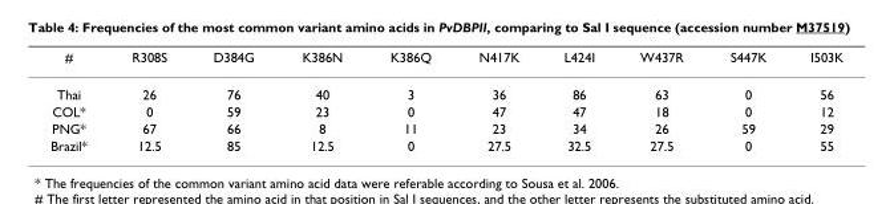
<table><thead><tr><td>#</td><td>R308S</td><td>D384G</td><td>K386N</td><td>K386Q</td><td>N417K</td><td>L424I</td><td>W437R</td><td>S447K</td><td>I503K</td></tr></thead><tbody><tr><td>Thai</td><td>26</td><td>76</td><td>40</td><td>3</td><td>36</td><td>86</td><td>63</td><td>0</td><td>56</td></tr><tr><td>COL*</td><td>0</td><td>59</td><td>23</td><td>0</td><td>47</td><td>47</td><td>18</td><td>0</td><td>12</td></tr><tr><td>PNG*</td><td>67</td><td>66</td><td>8</td><td>11</td><td>23</td><td>34</td><td>26</td><td>59</td><td>29</td></tr><tr><td>Brazil*</td><td>12.5</td><td>85</td><td>12.5</td><td>0</td><td>27.5</td><td>32.5</td><td>27.5</td><td>0</td><td>55</td></tr></tbody></table>